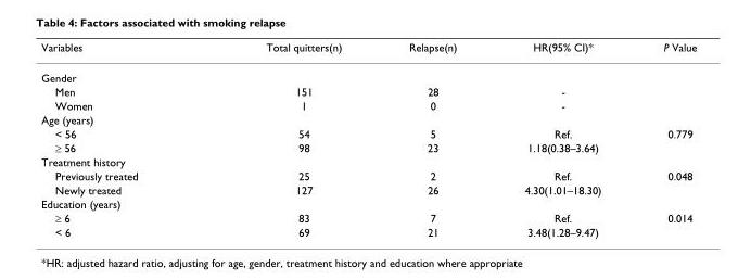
<table><thead><tr><td>Variables</td><td>Total quitters(n)</td><td>Relapse(n)</td><td>HR(95% CI)*</td><td>P Value</td></tr></thead><tbody><tr><td colspan="5">Gender</td></tr><tr><td>Men</td><td>151</td><td>28</td><td>-</td><td></td></tr><tr><td>Women</td><td>1</td><td>0</td><td>-</td><td></td></tr><tr><td colspan="5">Age (years)</td></tr><tr><td>&lt; 56</td><td>54</td><td>5</td><td>Ref.</td><td>0.779</td></tr><tr><td>≥ 56</td><td>98</td><td>23</td><td>1.18(0.38–3.64)</td><td></td></tr><tr><td colspan="5">Treatment history</td></tr><tr><td>Previously treated</td><td>25</td><td>2</td><td>Ref.</td><td>0.048</td></tr><tr><td>Newly treated</td><td>127</td><td>26</td><td>4.30(1.01–18.30)</td><td></td></tr><tr><td colspan="5">Education (years)</td></tr><tr><td>≥ 6</td><td>83</td><td>7</td><td>Ref.</td><td>0.014</td></tr><tr><td>&lt; 6</td><td>69</td><td>21</td><td>3.48(1.28–9.47)</td><td></td></tr></tbody></table>